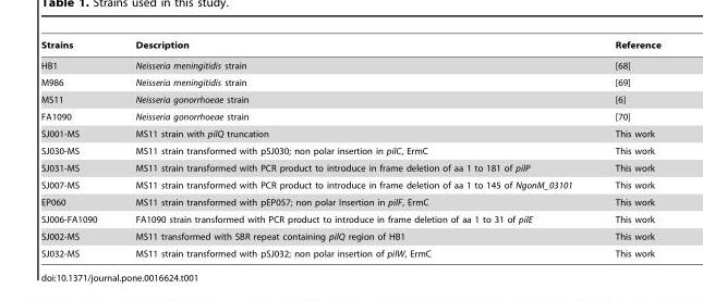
<table><thead><tr><td>Strains</td><td>Description</td><td>Reference</td></tr></thead><tbody><tr><td>HB1</td><td>Neisseria meningitidis strain</td><td>[68]</td></tr><tr><td>M986</td><td>Neisseria meningitidis strain</td><td>[69]</td></tr><tr><td>MS11</td><td>Neisseria gonorrhoeae strain</td><td>[6]</td></tr><tr><td>FA1090</td><td>Neisseria gonorrhoeae strain</td><td>[70]</td></tr><tr><td>SJ001-MS</td><td>MS11 strain with pilQ truncation</td><td>This work</td></tr><tr><td>SJ030-MS</td><td>MS11 strain transformed with pSJ030; non polar insertion in pilC, ErmC</td><td>This work</td></tr><tr><td>SJ031-MS</td><td>MS11 strain transformed with PCR product to introduce in frame deletion of aa 1 to 181 of pilP</td><td>This work</td></tr><tr><td>SJ007-MS</td><td>MS11 strain transformed with PCR product to introduce in frame deletion of aa 1 to 145 of NgonM_03101</td><td>This work</td></tr><tr><td>EP060</td><td>MS11 strain transformed with pEP057; non polar Insertion in pilF, ErmC</td><td>This work</td></tr><tr><td>SJ006-FA1090</td><td>FA1090 strain transformed with PCR product to introduce in frame deletion of aa 1 to 31 of pilE</td><td>This work</td></tr><tr><td>SJ002-MS</td><td>MS11 transformed with SBR repeat containing pilQ region of HB1</td><td>This work</td></tr><tr><td>SJ032-MS</td><td>MS11 strain transformed with pSJ032; non polar insertion of pilW, ErmC</td><td>This work</td></tr></tbody></table>